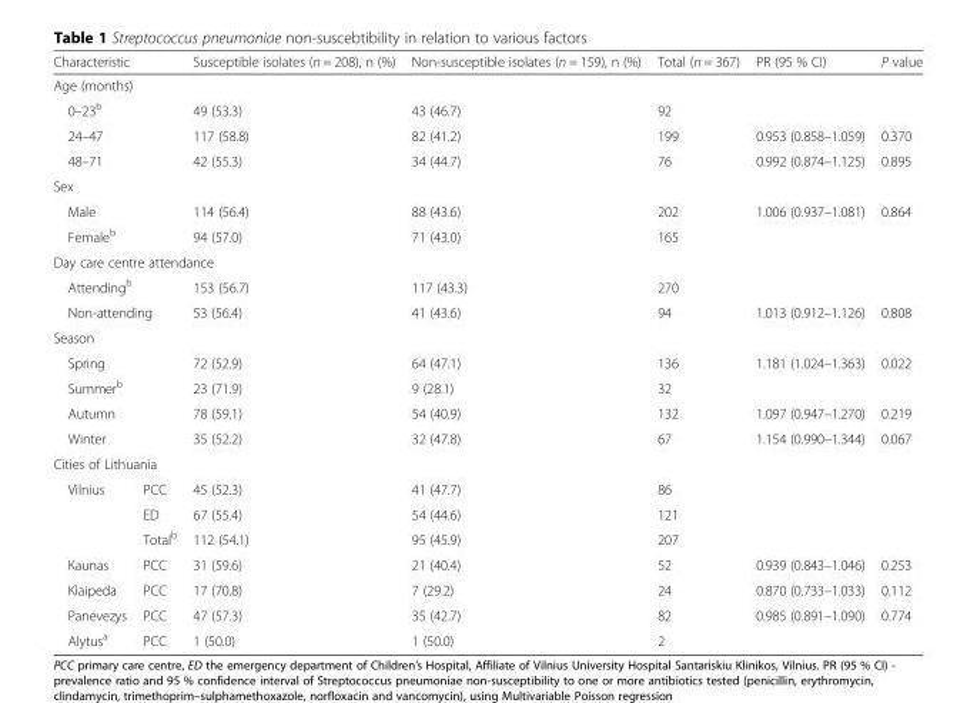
<table><thead><tr><td colspan="2">Characteristic</td><td>Susceptible isolates (n = 208), n (%)</td><td>Non-susceptible isolates (n = 159), n (%)</td><td>Total (n = 367)</td><td>PR (95 % CI)</td><td>P value</td></tr></thead><tbody><tr><td colspan="7">Age (months)</td></tr><tr><td colspan="2">0–23<sup>b</sup></td><td>49 (53.3)</td><td>43 (46.7)</td><td>92</td><td></td><td></td></tr><tr><td colspan="2">24–47</td><td>117 (58.8)</td><td>82 (41.2)</td><td>199</td><td>0.953 (0.858–1.059)</td><td>0.370</td></tr><tr><td colspan="2">48–71</td><td>42 (55.3)</td><td>34 (44.7)</td><td>76</td><td>0.992 (0.874–1.125)</td><td>0.895</td></tr><tr><td colspan="7">Sex</td></tr><tr><td colspan="2">Male</td><td>114 (56.4)</td><td>88 (43.6)</td><td>202</td><td>1.006 (0.937–1.081)</td><td>0.864</td></tr><tr><td colspan="2">Female<sup>b</sup></td><td>94 (57.0)</td><td>71 (43.0)</td><td>165</td><td></td><td></td></tr><tr><td colspan="7">Day care centre attendance</td></tr><tr><td colspan="2">Attending<sup>b</sup></td><td>153 (56.7)</td><td>117 (43.3)</td><td>270</td><td></td><td></td></tr><tr><td colspan="2">Non-attending</td><td>53 (56.4)</td><td>41 (43.6)</td><td>94</td><td>1.013 (0.912–1.126)</td><td>0.808</td></tr><tr><td colspan="7">Season</td></tr><tr><td colspan="2">Spring</td><td>72 (52.9)</td><td>64 (47.1)</td><td>136</td><td>1.181 (1.024–1.363)</td><td>0.022</td></tr><tr><td colspan="2">Summer<sup>b</sup></td><td>23 (71.9)</td><td>9 (28.1)</td><td>32</td><td></td><td></td></tr><tr><td colspan="2">Autumn</td><td>78 (59.1)</td><td>54 (40.9)</td><td>132</td><td>1.097 (0.947–1.270)</td><td>0.219</td></tr><tr><td colspan="2">Winter</td><td>35 (52.2)</td><td>32 (47.8)</td><td>67</td><td>1.154 (0.990–1.344)</td><td>0.067</td></tr><tr><td colspan="7">Cities of Lithuania</td></tr><tr><td rowspan="3">Vilnius</td><td>PCC</td><td>45 (52.3)</td><td>41 (47.7)</td><td>86</td><td></td><td></td></tr><tr><td>ED</td><td>67 (55.4)</td><td>54 (44.6)</td><td>121</td><td></td><td></td></tr><tr><td>Total<sup>b</sup></td><td>112 (54.1)</td><td>95 (45.9)</td><td>207</td><td></td><td></td></tr><tr><td>Kaunas</td><td>PCC</td><td>31 (59.6)</td><td>21 (40.4)</td><td>52</td><td>0.939 (0.843–1.046)</td><td>0.253</td></tr><tr><td>Klaipeda</td><td>PCC</td><td>17 (70.8)</td><td>7 (29.2)</td><td>24</td><td>0.870 (0.733–1.033)</td><td>0.112</td></tr><tr><td>Panevezys</td><td>PCC</td><td>47 (57.3)</td><td>35 (42.7)</td><td>82</td><td>0.985 (0.891–1.090)</td><td>0.774</td></tr><tr><td>Alytus<sup>a</sup></td><td>PCC</td><td>1 (50.0)</td><td>1 (50.0)</td><td>2</td><td></td><td></td></tr></tbody></table>